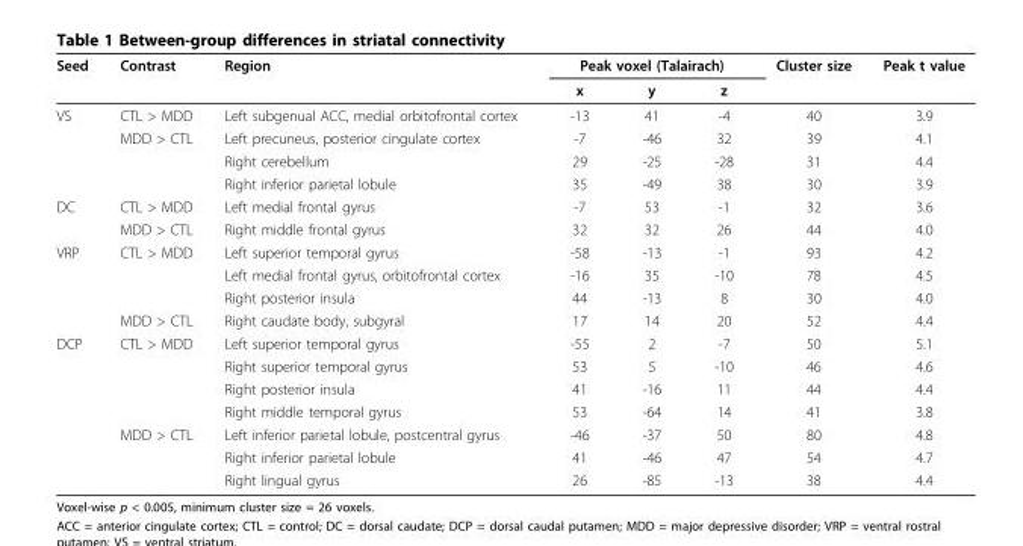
<table><thead><tr><td rowspan="2">Seed</td><td rowspan="2">Contrast</td><td rowspan="2">Region</td><td colspan="3">Peak voxel (Talairach)</td><td rowspan="2">Cluster size</td><td rowspan="2">Peak t value</td></tr><tr><td>x</td><td>y</td><td>z</td></tr></thead><tbody><tr><td rowspan="4">VS</td><td>CTL &gt; MDD</td><td>Left subgenual ACC, medial orbitofrontal cortex</td><td>-13</td><td>41</td><td>-4</td><td>40</td><td>3.9</td></tr><tr><td>MDD &gt; CTL</td><td>Left precuneus, posterior cingulate cortex</td><td>-7</td><td>-46</td><td>32</td><td>39</td><td>4.1</td></tr><tr><td></td><td>Right cerebellum</td><td>29</td><td>-25</td><td>-28</td><td>31</td><td>4.4</td></tr><tr><td></td><td>Right inferior parietal lobule</td><td>35</td><td>-49</td><td>38</td><td>30</td><td>3.9</td></tr><tr><td rowspan="2">DC</td><td>CTL &gt; MDD</td><td>Left medial frontal gyrus</td><td>-7</td><td>53</td><td>-1</td><td>32</td><td>3.6</td></tr><tr><td>MDD &gt; CTL</td><td>Right middle frontal gyrus</td><td>32</td><td>32</td><td>26</td><td>44</td><td>4.0</td></tr><tr><td rowspan="4">VRP</td><td>CTL &gt; MDD</td><td>Left superior temporal gyrus</td><td>-58</td><td>-13</td><td>-1</td><td>93</td><td>4.2</td></tr><tr><td></td><td>Left medial frontal gyrus, orbitofrontal cortex</td><td>-16</td><td>35</td><td>-10</td><td>78</td><td>4.5</td></tr><tr><td></td><td>Right posterior insula</td><td>44</td><td>-13</td><td>8</td><td>30</td><td>4.0</td></tr><tr><td>MDD &gt; CTL</td><td>Right caudate body, subgyral</td><td>17</td><td>14</td><td>20</td><td>52</td><td>4.4</td></tr><tr><td rowspan="7">DCP</td><td>CTL &gt; MDD</td><td>Left superior temporal gyrus</td><td>-55</td><td>2</td><td>-7</td><td>50</td><td>5.1</td></tr><tr><td></td><td>Right superior temporal gyrus</td><td>53</td><td>5</td><td>-10</td><td>46</td><td>4.6</td></tr><tr><td></td><td>Right posterior insula</td><td>41</td><td>-16</td><td>11</td><td>44</td><td>4.4</td></tr><tr><td></td><td>Right middle temporal gyrus</td><td>53</td><td>-64</td><td>14</td><td>41</td><td>3.8</td></tr><tr><td>MDD &gt; CTL</td><td>Left inferior parietal lobule, postcentral gyrus</td><td>-46</td><td>-37</td><td>50</td><td>80</td><td>4.8</td></tr><tr><td></td><td>Right inferior parietal lobule</td><td>41</td><td>-46</td><td>47</td><td>54</td><td>4.7</td></tr><tr><td></td><td>Right lingual gyrus</td><td>26</td><td>-85</td><td>-13</td><td>38</td><td>4.4</td></tr></tbody></table>